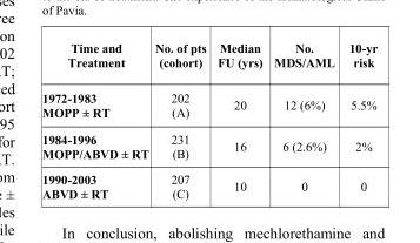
<table><thead><tr><td>Time and Treatment</td><td>No. of pts (cohort)</td><td>Median FU (yrs)</td><td>No. MDS/AML</td><td>10-yr risk</td></tr></thead><tbody><tr><td>1972-1983 MOPP ± RT</td><td>202 (A)</td><td>20</td><td>12 (6%)</td><td>5.5%</td></tr><tr><td>1984-1996 MOPP/ABVD ± RT</td><td>231 (B)</td><td>16</td><td>6 (2.6%)</td><td>2%</td></tr><tr><td>1990-2003 ABVD ± RT</td><td>207 (C)</td><td>10</td><td>0</td><td>0</td></tr></tbody></table>